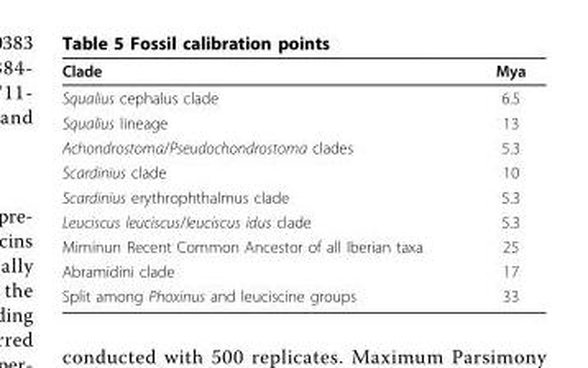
<table><thead><tr><td>Clade</td><td>Mya</td></tr></thead><tbody><tr><td>Squalius cephalus clade</td><td>6.5</td></tr><tr><td>Squalius lineage</td><td>13</td></tr><tr><td>Achondrostoma/Pseudochondrostoma clades</td><td>5.3</td></tr><tr><td>Scardinius clade</td><td>10</td></tr><tr><td>Scardinius erythrophthalmus clade</td><td>5.3</td></tr><tr><td>Leuciscus leuciscus/leuciscus idus clade</td><td>5.3</td></tr><tr><td>Miminun Recent Common Ancestor of all Iberian taxa</td><td>25</td></tr><tr><td>Abramidini clade</td><td>17</td></tr><tr><td>Split among Phoxinus and leuciscine groups</td><td>33</td></tr></tbody></table>